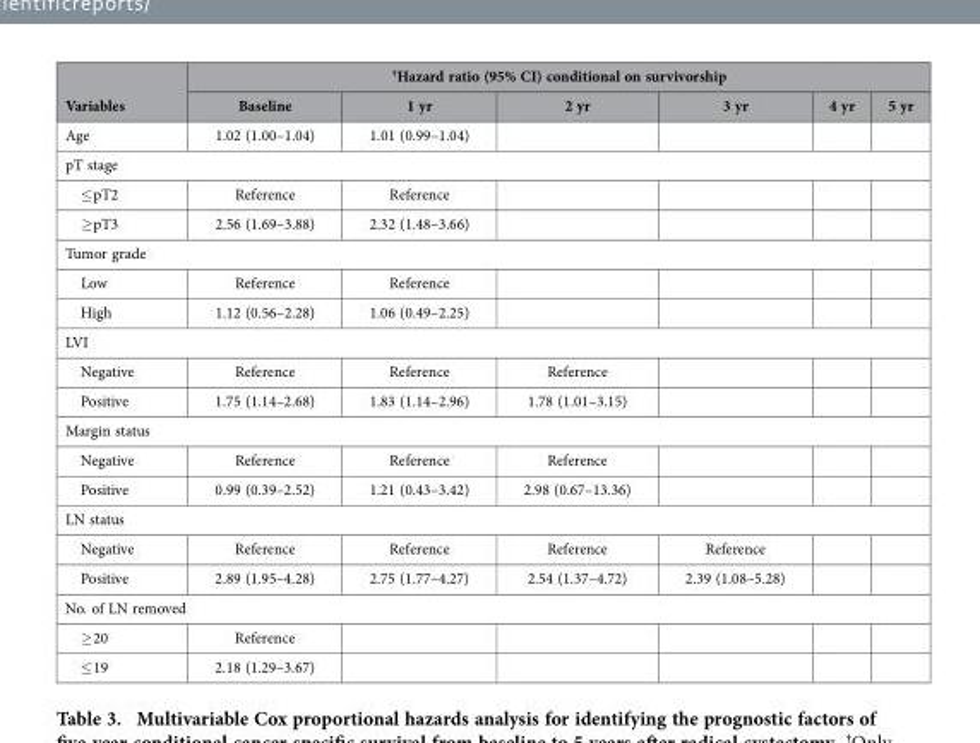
<table><thead><tr><td rowspan="2">Variables</td><td colspan="6">†Hazard ratio (95% CI) conditional on survivorship</td></tr><tr><td>Baseline</td><td>1 yr</td><td>2 yr</td><td>3 yr</td><td>4 yr</td><td>5 yr</td></tr></thead><tbody><tr><td>Age</td><td>1.02 (1.00–1.04)</td><td>1.01 (0.99–1.04)</td><td></td><td></td><td></td><td></td></tr><tr><td colspan="7">pT stage</td></tr><tr><td>≤ pT2</td><td>Reference</td><td>Reference</td><td></td><td></td><td></td><td></td></tr><tr><td>≥ pT3</td><td>2.56 (1.69–3.88)</td><td>2.32 (1.48–3.66)</td><td></td><td></td><td></td><td></td></tr><tr><td colspan="7">Tumor grade</td></tr><tr><td>Low</td><td>Reference</td><td>Reference</td><td></td><td></td><td></td><td></td></tr><tr><td>High</td><td>1.12 (0.56–2.28)</td><td>1.06 (0.49–2.25)</td><td></td><td></td><td></td><td></td></tr><tr><td colspan="7">LVI</td></tr><tr><td>Negative</td><td>Reference</td><td>Reference</td><td>Reference</td><td></td><td></td><td></td></tr><tr><td>Positive</td><td>1.75 (1.14–2.68)</td><td>1.83 (1.14–2.96)</td><td>1.78 (1.01–3.15)</td><td></td><td></td><td></td></tr><tr><td colspan="7">Margin status</td></tr><tr><td>Negative</td><td>Reference</td><td>Reference</td><td>Reference</td><td></td><td></td><td></td></tr><tr><td>Positive</td><td>0.99 (0.39–2.52)</td><td>1.21 (0.43–3.42)</td><td>2.98 (0.67–13.36)</td><td></td><td></td><td></td></tr><tr><td colspan="7">LN status</td></tr><tr><td>Negative</td><td>Reference</td><td>Reference</td><td>Reference</td><td>Reference</td><td></td><td></td></tr><tr><td>Positive</td><td>2.89 (1.95–4.28)</td><td>2.75 (1.77–4.27)</td><td>2.54 (1.37–4.72)</td><td>2.39 (1.08–5.28)</td><td></td><td></td></tr><tr><td colspan="7">No. of LN removed</td></tr><tr><td>≥ 20</td><td>Reference</td><td></td><td></td><td></td><td></td><td></td></tr><tr><td>≤ 19</td><td>2.18 (1.29–3.67)</td><td></td><td></td><td></td><td></td><td></td></tr></tbody></table>